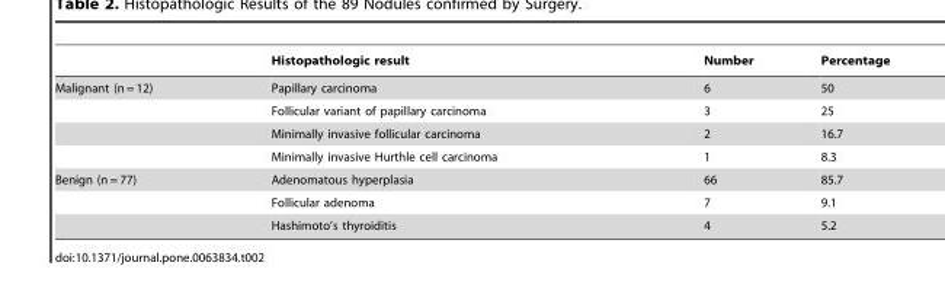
<table><thead><tr><td></td><td>Histopathologic result</td><td>Number</td><td>Percentage</td></tr></thead><tbody><tr><td rowspan="4">Malignant (n = 12)</td><td>Papillary carcinoma</td><td>6</td><td>50</td></tr><tr><td>Follicular variant of papillary carcinoma</td><td>3</td><td>25</td></tr><tr><td>Minimally invasive follicular carcinoma</td><td>2</td><td>16.7</td></tr><tr><td>Minimally invasive Hurthle cell carcinoma</td><td>1</td><td>8.3</td></tr><tr><td rowspan="3">Benign (n = 77)</td><td>Adenomatous hyperplasia</td><td>66</td><td>85.7</td></tr><tr><td>Follicular adenoma</td><td>7</td><td>9.1</td></tr><tr><td>Hashimoto’s thyroiditis</td><td>4</td><td>5.2</td></tr></tbody></table>